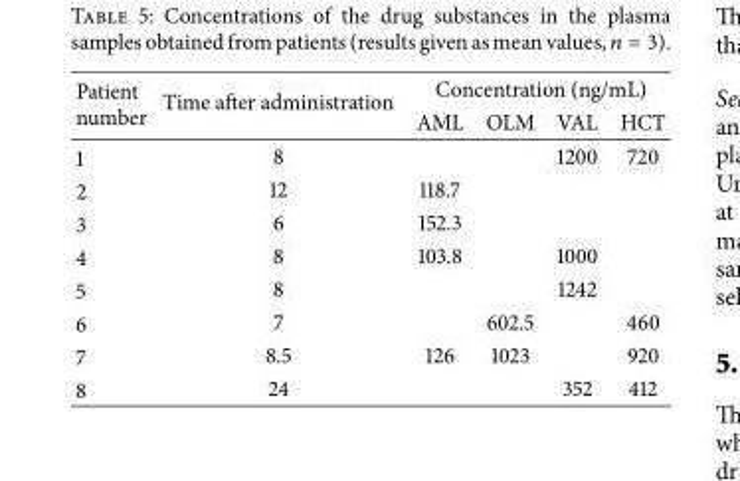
<table><thead><tr><td rowspan="2">Patient number</td><td rowspan="2">Time after administration</td><td colspan="4">Concentration (ng/mL)</td></tr><tr><td>AML</td><td>OLM</td><td>VAL</td><td>HCT</td></tr></thead><tbody><tr><td>1</td><td>8</td><td></td><td></td><td>1200</td><td>720</td></tr><tr><td>2</td><td>12</td><td>118.7</td><td></td><td></td><td></td></tr><tr><td>3</td><td>6</td><td>152.3</td><td></td><td></td><td></td></tr><tr><td>4</td><td>8</td><td>103.8</td><td></td><td>1000</td><td></td></tr><tr><td>5</td><td>8</td><td></td><td></td><td>1242</td><td></td></tr><tr><td>6</td><td>7</td><td></td><td>602.5</td><td></td><td>460</td></tr><tr><td>7</td><td>8.5</td><td>126</td><td>1023</td><td></td><td>920</td></tr><tr><td>8</td><td>24</td><td></td><td></td><td>352</td><td>412</td></tr></tbody></table>